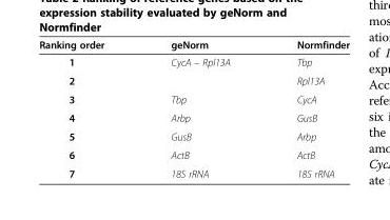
<table><thead><tr><td>Ranking order</td><td>geNorm</td><td>Normfinder</td></tr></thead><tbody><tr><td>1</td><td>CycA – Rpl13A</td><td>Tbp</td></tr><tr><td>2</td><td></td><td>Rpl13A</td></tr><tr><td>3</td><td>Tbp</td><td>CycA</td></tr><tr><td>4</td><td>Arbp</td><td>GusB</td></tr><tr><td>5</td><td>GusB</td><td>Arbp</td></tr><tr><td>6</td><td>ActB</td><td>ActB</td></tr><tr><td>7</td><td>18S rRNA</td><td>18S rRNA</td></tr></tbody></table>